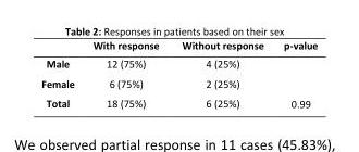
<table><thead><tr><td></td><td>With response</td><td>Without response</td><td>p-value</td></tr></thead><tbody><tr><td>Male</td><td>12 (75%)</td><td>4 (25%)</td><td rowspan="3">0.99</td></tr><tr><td>Female</td><td>6 (75%)</td><td>2 (25%)</td></tr><tr><td>Total</td><td>18 (75%)</td><td>6 (25%)</td></tr></tbody></table>